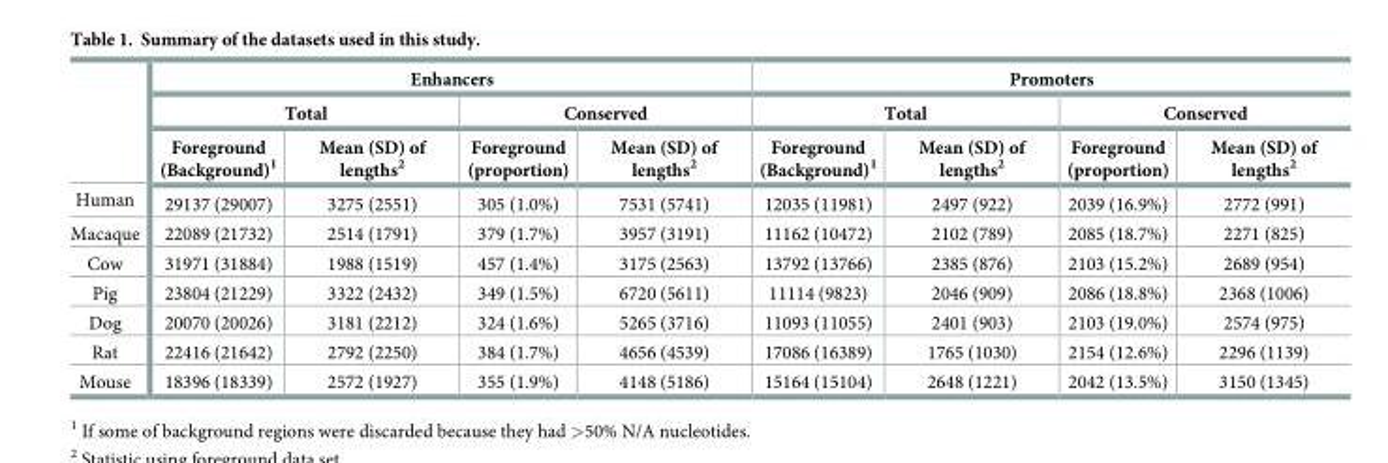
<table><thead><tr><td rowspan="3"></td><td colspan="4">Enhancers</td><td colspan="4">Promoters</td></tr><tr><td colspan="2">Total</td><td colspan="2">Conserved</td><td colspan="2">Total</td><td colspan="2">Conserved</td></tr><tr><td>Foreground (Background)<sup>1</sup></td><td>Mean (SD) of lengths<sup>2</sup></td><td>Foreground (proportion)</td><td>Mean (SD) of lengths<sup>2</sup></td><td>Foreground (Background)<sup>1</sup></td><td>Mean (SD) of lengths<sup>2</sup></td><td>Foreground (proportion)</td><td>Mean (SD) of lengths<sup>2</sup></td></tr></thead><tbody><tr><td>Human</td><td>29137 (29007)</td><td>3275 (2551)</td><td>305 (1.0%)</td><td>7531 (5741)</td><td>12035 (11981)</td><td>2497 (922)</td><td>2039 (16.9%)</td><td>2772 (991)</td></tr><tr><td>Macaque</td><td>22089 (21732)</td><td>2514 (1791)</td><td>379 (1.7%)</td><td>3957 (3191)</td><td>11162 (10472)</td><td>2102 (789)</td><td>2085 (18.7%)</td><td>2271 (825)</td></tr><tr><td>Cow</td><td>31971 (31884)</td><td>1988 (1519)</td><td>457 (1.4%)</td><td>3175 (2563)</td><td>13792 (13766)</td><td>2385 (876)</td><td>2103 (15.2%)</td><td>2689 (954)</td></tr><tr><td>Pig</td><td>23804 (21229)</td><td>3322 (2432)</td><td>349 (1.5%)</td><td>6720 (5611)</td><td>11114 (9823)</td><td>2046 (909)</td><td>2086 (18.8%)</td><td>2368 (1006)</td></tr><tr><td>Dog</td><td>20070 (20026)</td><td>3181 (2212)</td><td>324 (1.6%)</td><td>5265 (3716)</td><td>11093 (11055)</td><td>2401 (903)</td><td>2103 (19.0%)</td><td>2574 (975)</td></tr><tr><td>Rat</td><td>22416 (21642)</td><td>2792 (2250)</td><td>384 (1.7%)</td><td>4656 (4539)</td><td>17086 (16389)</td><td>1765 (1030)</td><td>2154 (12.6%)</td><td>2296 (1139)</td></tr><tr><td>Mouse</td><td>18396 (18339)</td><td>2572 (1927)</td><td>355 (1.9%)</td><td>4148 (5186)</td><td>15164 (15104)</td><td>2648 (1221)</td><td>2042 (13.5%)</td><td>3150 (1345)</td></tr></tbody></table>